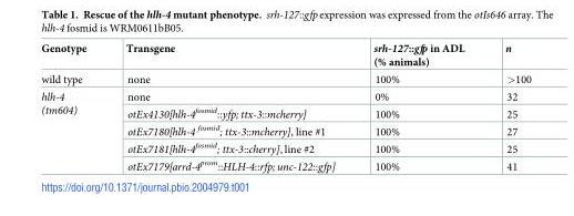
<table><thead><tr><td>Genotype</td><td>Transgene</td><td>srh-127::gfp in ADL (% animals)</td><td>n</td></tr></thead><tbody><tr><td>wild type</td><td>none</td><td>100%</td><td>&gt;100</td></tr><tr><td rowspan="5">hlh-4 (tm604)</td><td>none</td><td>0%</td><td>32</td></tr><tr><td>otEx4130[hlh-4<sup>fosmid</sup>::yfp; ttx-3::mcherry]</td><td>100%</td><td>25</td></tr><tr><td>otEx7180[hlh-4 <sup>fosmid</sup>; ttx-3::mcherry], line #1</td><td>100%</td><td>27</td></tr><tr><td>otEx7181[hlh-4<sup>fosmid</sup>; ttx-3::cherry], line #2</td><td>100%</td><td>25</td></tr><tr><td>otEx7179[arrd-4<sup>prom</sup>::HLH-4::rfp; unc-122::gfp]</td><td>100%</td><td>41</td></tr></tbody></table>